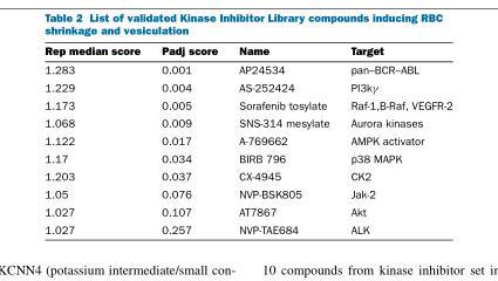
<table><thead><tr><td>Rep median score</td><td>Padj score</td><td>Name</td><td>Target</td></tr></thead><tbody><tr><td>1.283</td><td>0.001</td><td>AP24534</td><td>pan–BCR–ABL</td></tr><tr><td>1.229</td><td>0.004</td><td>AS-252424</td><td>PI3kγ</td></tr><tr><td>1.173</td><td>0.005</td><td>Sorafenib tosylate</td><td>Raf-1,B-Raf, VEGFR-2</td></tr><tr><td>1.068</td><td>0.009</td><td>SNS-314 mesylate</td><td>Aurora kinases</td></tr><tr><td>1.122</td><td>0.017</td><td>A-769662</td><td>AMPK activator</td></tr><tr><td>1.17</td><td>0.034</td><td>BIRB 796</td><td>p38 MAPK</td></tr><tr><td>1.203</td><td>0.037</td><td>CX-4945</td><td>CK2</td></tr><tr><td>1.05</td><td>0.076</td><td>NVP-BSK805</td><td>Jak-2</td></tr><tr><td>1.027</td><td>0.107</td><td>AT7867</td><td>Akt</td></tr><tr><td>1.027</td><td>0.257</td><td>NVP-TAE684</td><td>ALK</td></tr></tbody></table>